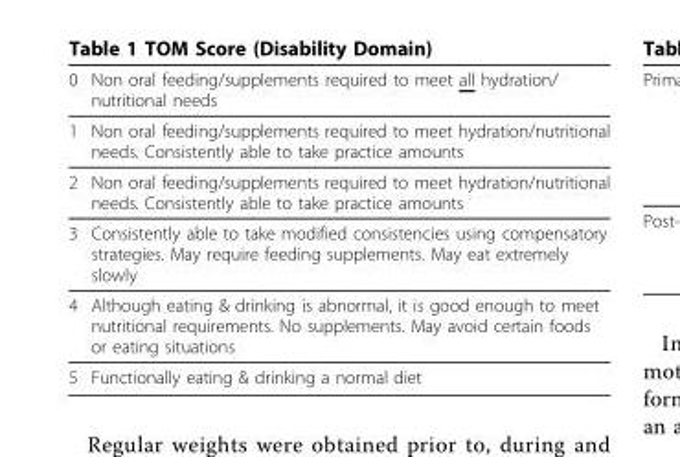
<table><thead><tr><td>0</td><td>Non oral feeding/supplements required to meet all hydration/ nutritional needs</td></tr></thead><tbody><tr><td>1</td><td>Non oral feeding/supplements required to meet hydration/nutritional needs. Consistently able to take practice amounts</td></tr><tr><td>2</td><td>Non oral feeding/supplements required to meet hydration/nutritional needs. Consistently able to take practice amounts</td></tr><tr><td>3</td><td>Consistently able to take modified consistencies using compensatory strategies. May require feeding supplements. May eat extremely slowly</td></tr><tr><td>4</td><td>Although eating &amp; drinking is abnormal, it is good enough to meet nutritional requirements. No supplements. May avoid certain foods or eating situations</td></tr><tr><td>5</td><td>Functionally eating &amp; drinking a normal diet</td></tr></tbody></table>